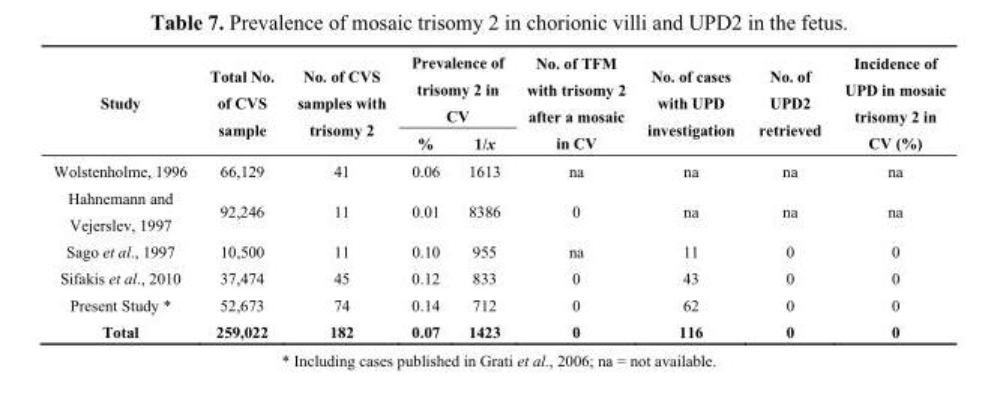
<table><thead><tr><td rowspan="2">Study</td><td rowspan="2">Total No. of CVS sample</td><td rowspan="2">No. of CVS samples with trisomy 2</td><td colspan="2">Prevalence of trisomy 2 in CV</td><td rowspan="2">No. of TFM with trisomy 2 after a mosaic in CV</td><td rowspan="2">No. of cases with UPD investigation</td><td rowspan="2">No. of UPD2 retrieved</td><td rowspan="2">Incidence of UPD in mosaic trisomy 2 in CV (%)</td></tr><tr><td>%</td><td>1/x</td></tr></thead><tbody><tr><td>Wolstenholme, 1996</td><td>66,129</td><td>41</td><td>0.06</td><td>1613</td><td>na</td><td>na</td><td>na</td><td>na</td></tr><tr><td>Hahnemann and Vejerslev, 1997</td><td>92,246</td><td>11</td><td>0.01</td><td>8386</td><td>0</td><td>na</td><td>na</td><td>na</td></tr><tr><td>Sago et al., 1997</td><td>10,500</td><td>11</td><td>0.10</td><td>955</td><td>na</td><td>11</td><td>0</td><td>0</td></tr><tr><td>Sifakis et al., 2010</td><td>37,474</td><td>45</td><td>0.12</td><td>833</td><td>0</td><td>43</td><td>0</td><td>0</td></tr><tr><td>Present Study *</td><td>52,673</td><td>74</td><td>0.14</td><td>712</td><td>0</td><td>62</td><td>0</td><td>0</td></tr><tr><td>Total</td><td>259,022</td><td>182</td><td>0.07</td><td>1423</td><td>0</td><td>116</td><td>0</td><td>0</td></tr></tbody></table>